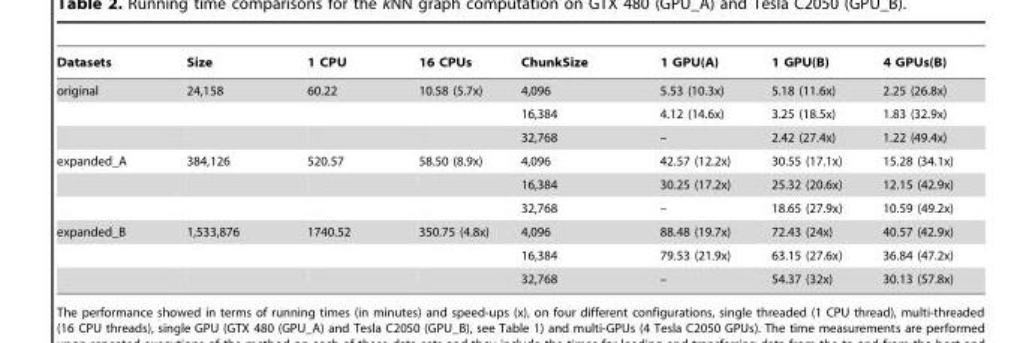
<table><thead><tr><td>Datasets</td><td>Size</td><td>1 CPU</td><td>16 CPUs</td><td>ChunkSize</td><td>1 GPU(A)</td><td>1 GPU(B)</td><td>4 GPUs(B)</td></tr></thead><tbody><tr><td rowspan="3">original</td><td>24,158</td><td>60.22</td><td>10.58 (5.7x)</td><td>4,096</td><td>5.53 (10.3x)</td><td>5.18 (11.6x)</td><td>2.25 (26.8x)</td></tr><tr><td></td><td></td><td></td><td>16,384</td><td>4.12 (14.6x)</td><td>3.25 (18.5x)</td><td>1.83 (32.9x)</td></tr><tr><td></td><td></td><td></td><td>32,768</td><td>–</td><td>2.42 (27.4x)</td><td>1.22 (49.4x)</td></tr><tr><td rowspan="3">expanded_A</td><td>384,126</td><td>520.57</td><td>58.50 (8.9x)</td><td>4,096</td><td>42.57 (12.2x)</td><td>30.55 (17.1x)</td><td>15.28 (34.1x)</td></tr><tr><td></td><td></td><td></td><td>16,384</td><td>30.25 (17.2x)</td><td>25.32 (20.6x)</td><td>12.15 (42.9x)</td></tr><tr><td></td><td></td><td></td><td>32,768</td><td>–</td><td>18.65 (27.9x)</td><td>10.59 (49.2x)</td></tr><tr><td rowspan="3">expanded_B</td><td>1,533,876</td><td>1740.52</td><td>350.75 (4.8x)</td><td>4,096</td><td>88.48 (19.7x)</td><td>72.43 (24x)</td><td>40.57 (42.9x)</td></tr><tr><td></td><td></td><td></td><td>16,384</td><td>79.53 (21.9x)</td><td>63.15 (27.6x)</td><td>36.84 (47.2x)</td></tr><tr><td></td><td></td><td></td><td>32,768</td><td>–</td><td>54.37 (32x)</td><td>30.13 (57.8x)</td></tr></tbody></table>